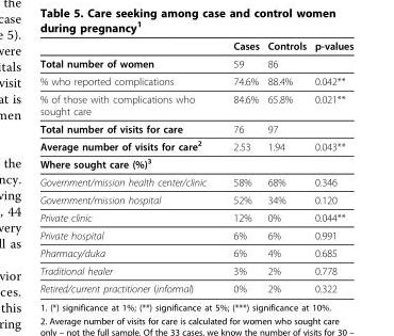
<table><thead><tr><td></td><td>Cases</td><td>Controls</td><td>p-values</td></tr></thead><tbody><tr><td>Total number of women</td><td>59</td><td>86</td><td></td></tr><tr><td>% who reported complications</td><td>74.6%</td><td>88.4%</td><td>0.042**</td></tr><tr><td>% of those with complications who sought care</td><td>84.6%</td><td>65.8%</td><td>0.021**</td></tr><tr><td>Total number of visits for care</td><td>76</td><td>97</td><td></td></tr><tr><td>Average number of visits for care<sup>2</sup></td><td>2.53</td><td>1.94</td><td>0.043**</td></tr><tr><td colspan="4">Where sought care (%)<sup>3</sup></td></tr><tr><td>Government/mission health center/clinic</td><td>58%</td><td>68%</td><td>0.346</td></tr><tr><td>Government/mission hospital</td><td>52%</td><td>34%</td><td>0.120</td></tr><tr><td>Private clinic</td><td>12%</td><td>0%</td><td>0.044**</td></tr><tr><td>Private hospital</td><td>6%</td><td>6%</td><td>0.991</td></tr><tr><td>Pharmacy/duka</td><td>6%</td><td>4%</td><td>0.685</td></tr><tr><td>Traditional healer</td><td>3%</td><td>2%</td><td>0.778</td></tr><tr><td>Retired/current practitioner (informal)</td><td>0%</td><td>2%</td><td>0.322</td></tr></tbody></table>